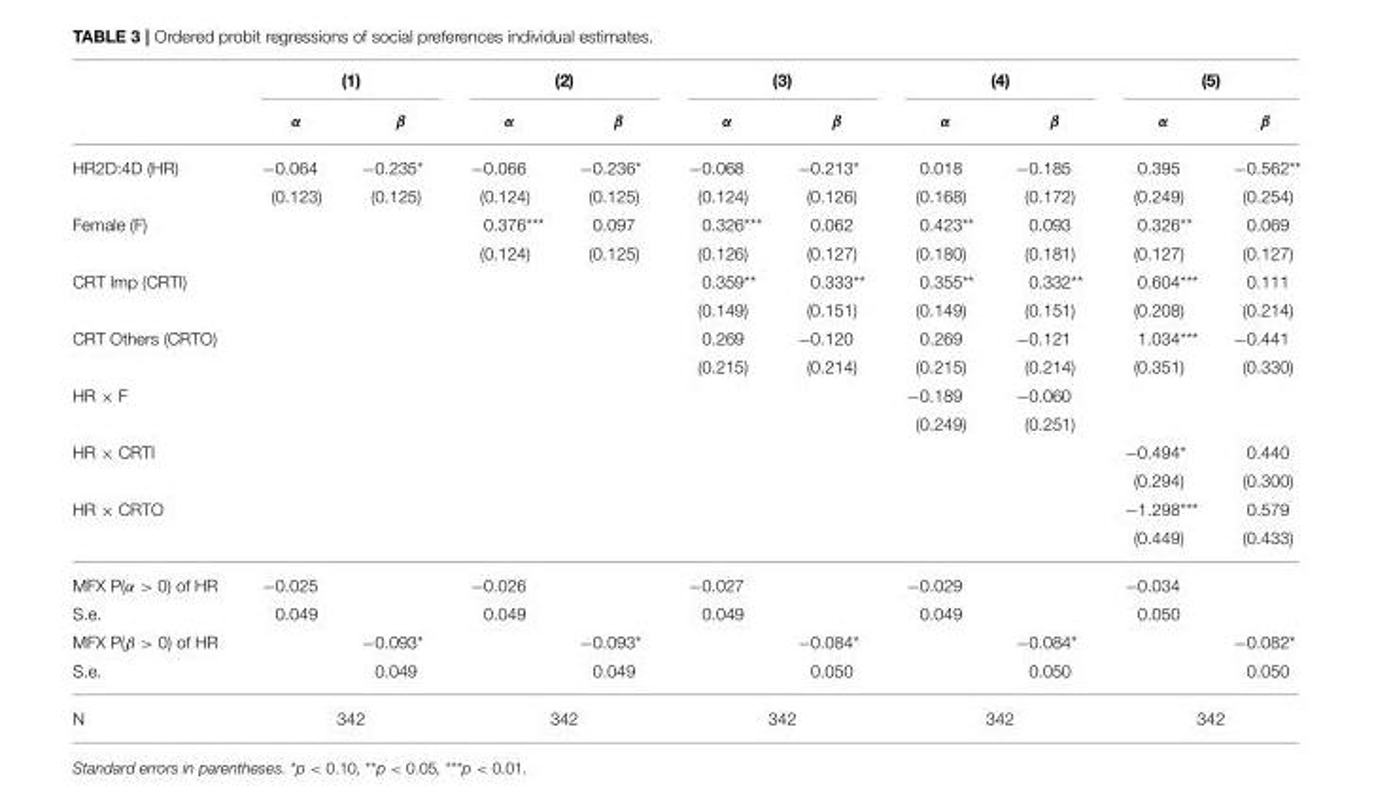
<table><thead><tr><td rowspan="2"></td><td colspan="2">(1)</td><td colspan="2">(2)</td><td colspan="2">(3)</td><td colspan="2">(4)</td><td colspan="2">(5)</td></tr><tr><td>α</td><td>β</td><td>α</td><td>β</td><td>α</td><td>β</td><td>α</td><td>β</td><td>α</td><td>β</td></tr></thead><tbody><tr><td rowspan="2">HR2D:4D (HR)</td><td>−0.064</td><td>−0.235*</td><td>−0.066</td><td>−0.236*</td><td>−0.068</td><td>−0.213*</td><td>0.018</td><td>−0.185</td><td>0.395</td><td>−0.562**</td></tr><tr><td>(0.123)</td><td>(0.125)</td><td>(0.124)</td><td>(0.125)</td><td>(0.124)</td><td>(0.126)</td><td>(0.168)</td><td>(0.172)</td><td>(0.249)</td><td>(0.254)</td></tr><tr><td rowspan="2">Female (F)</td><td></td><td></td><td>0.376***</td><td>0.097</td><td>0.326***</td><td>0.062</td><td>0.423**</td><td>0.093</td><td>0.326**</td><td>0.069</td></tr><tr><td></td><td></td><td>(0.124)</td><td>(0.125)</td><td>(0.126)</td><td>(0.127)</td><td>(0.180)</td><td>(0.181)</td><td>(0.127)</td><td>(0.127)</td></tr><tr><td rowspan="2">CRT Imp (CRTI)</td><td></td><td></td><td></td><td></td><td>0.359**</td><td>0.333**</td><td>0.355**</td><td>0.332**</td><td>0.604***</td><td>0.111</td></tr><tr><td></td><td></td><td></td><td></td><td>(0.149)</td><td>(0.151)</td><td>(0.149)</td><td>(0.151)</td><td>(0.208)</td><td>(0.214)</td></tr><tr><td rowspan="2">CRT Others (CRTO)</td><td></td><td></td><td></td><td></td><td>0.269</td><td>−0.120</td><td>0.269</td><td>−0.121</td><td>1.034***</td><td>−0.441</td></tr><tr><td></td><td></td><td></td><td></td><td>(0.215)</td><td>(0.214)</td><td>(0.215)</td><td>(0.214)</td><td>(0.351)</td><td>(0.330)</td></tr><tr><td rowspan="2">HR × F</td><td></td><td></td><td></td><td></td><td></td><td></td><td>−0.189</td><td>−0.060</td><td></td><td></td></tr><tr><td></td><td></td><td></td><td></td><td></td><td></td><td>(0.249)</td><td>(0.251)</td><td></td><td></td></tr><tr><td rowspan="2">HR × CRTI</td><td></td><td></td><td></td><td></td><td></td><td></td><td></td><td></td><td>−0.494*</td><td>0.440</td></tr><tr><td></td><td></td><td></td><td></td><td></td><td></td><td></td><td></td><td>(0.294)</td><td>(0.300)</td></tr><tr><td rowspan="2">HR × CRTO</td><td></td><td></td><td></td><td></td><td></td><td></td><td></td><td></td><td>−1.298***</td><td>0.579</td></tr><tr><td></td><td></td><td></td><td></td><td></td><td></td><td></td><td></td><td>(0.449)</td><td>(0.433)</td></tr><tr><td>MFX P(α &gt; 0) of HR</td><td>−0.025</td><td></td><td>−0.026</td><td></td><td>−0.027</td><td></td><td>−0.029</td><td></td><td>−0.034</td><td></td></tr><tr><td>S.e.</td><td>0.049</td><td></td><td>0.049</td><td></td><td>0.049</td><td></td><td>0.049</td><td></td><td>0.050</td><td></td></tr><tr><td>MFX P(β &gt; 0) of HR</td><td></td><td>−0.093*</td><td></td><td>−0.093*</td><td></td><td>−0.084*</td><td></td><td>−0.084*</td><td></td><td>−0.082*</td></tr><tr><td>S.e.</td><td></td><td>0.049</td><td></td><td>0.049</td><td></td><td>0.050</td><td></td><td>0.050</td><td></td><td>0.050</td></tr><tr><td>N</td><td colspan="2">342</td><td colspan="2">342</td><td colspan="2">342</td><td colspan="2">342</td><td colspan="2">342</td></tr></tbody></table>